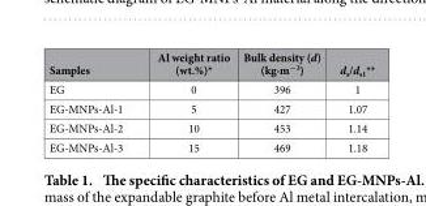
<table><thead><tr><td>Samples</td><td>Al weight ratio (wt.%)*</td><td>Bulk density (d) (kg·m<sup>−3</sup>)</td><td>d<sub>s</sub>/d<sub>s1</sub>**</td></tr></thead><tbody><tr><td>EG</td><td>0</td><td>396</td><td>1</td></tr><tr><td>EG-MNPs-Al-1</td><td>5</td><td>427</td><td>1.07</td></tr><tr><td>EG-MNPs-Al-2</td><td>10</td><td>453</td><td>1.14</td></tr><tr><td>EG-MNPs-Al-3</td><td>15</td><td>469</td><td>1.18</td></tr></tbody></table>